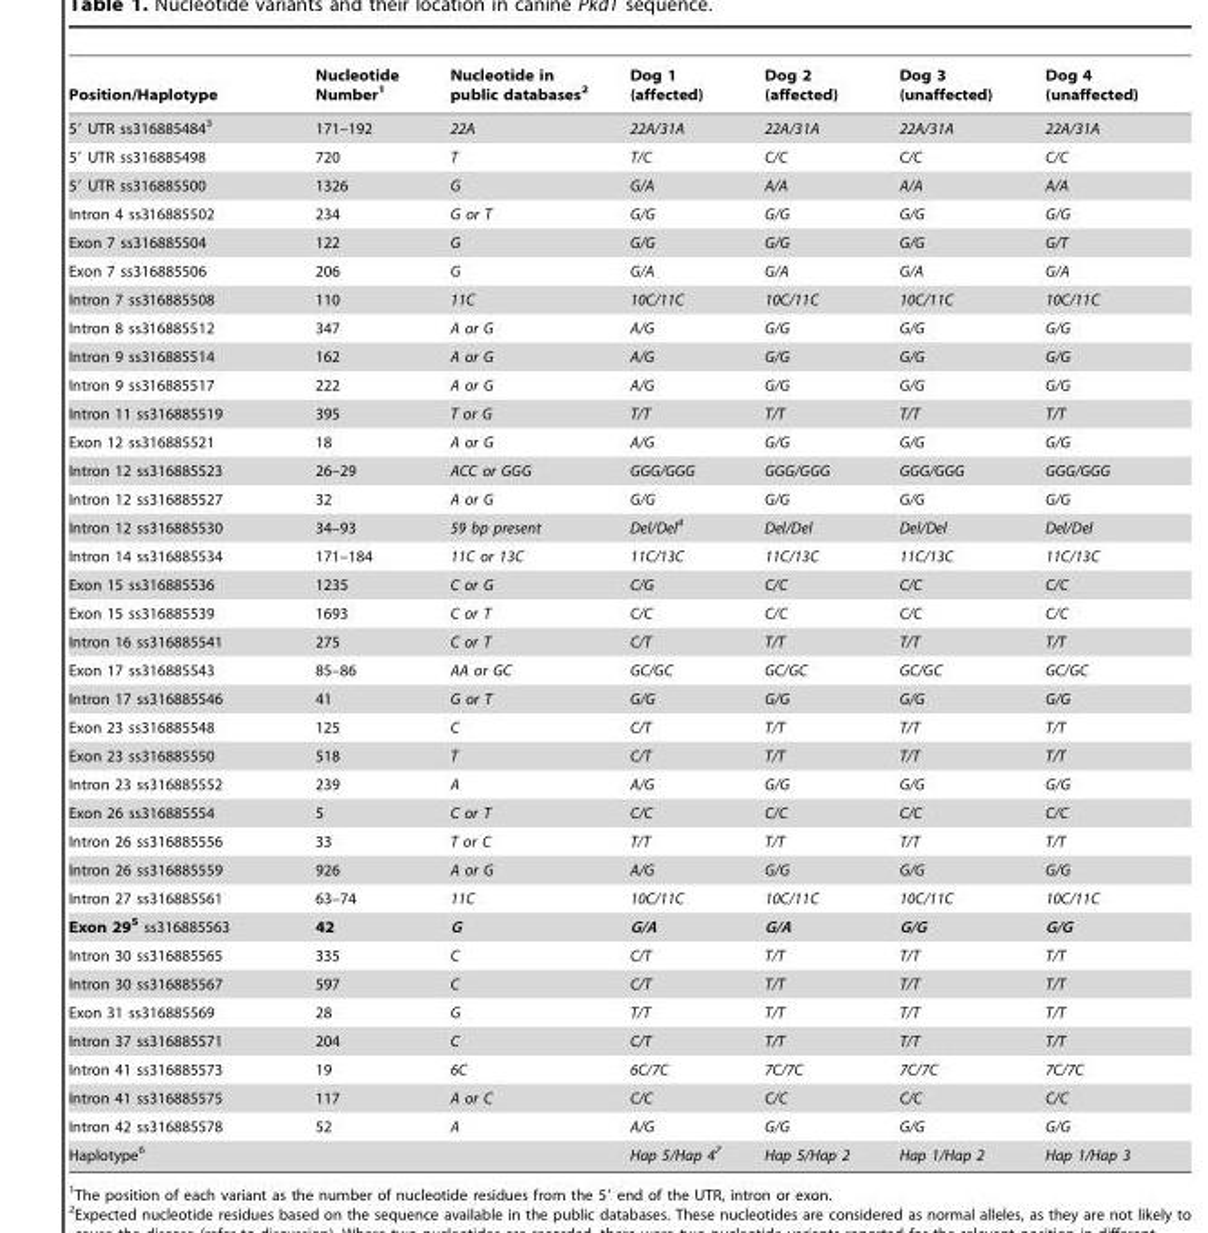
<table><thead><tr><td>Position/Haplotype</td><td>Nucleotide Number<sup>1</sup></td><td>Nucleotide in public databases<sup>2</sup></td><td>Dog 1 (affected)</td><td>Dog 2 (affected)</td><td>Dog 3 (unaffected)</td><td>Dog 4 (unaffected)</td></tr></thead><tbody><tr><td>5′ UTR ss316885484<sup>3</sup></td><td>171–192</td><td>22A</td><td>22A/31A</td><td>22A/31A</td><td>22A/31A</td><td>22A/31A</td></tr><tr><td>5′ UTR ss316885498</td><td>720</td><td>T</td><td>T/C</td><td>C/C</td><td>C/C</td><td>C/C</td></tr><tr><td>5′ UTR ss316885500</td><td>1326</td><td>G</td><td>G/A</td><td>A/A</td><td>A/A</td><td>A/A</td></tr><tr><td>Intron 4 ss316885502</td><td>234</td><td>G or T</td><td>G/G</td><td>G/G</td><td>G/G</td><td>G/G</td></tr><tr><td>Exon 7 ss316885504</td><td>122</td><td>G</td><td>G/G</td><td>G/G</td><td>G/G</td><td>G/T</td></tr><tr><td>Exon 7 ss316885506</td><td>206</td><td>G</td><td>G/A</td><td>G/A</td><td>G/A</td><td>G/A</td></tr><tr><td>Intron 7 ss316885508</td><td>110</td><td>11C</td><td>10C/11C</td><td>10C/11C</td><td>10C/11C</td><td>10C/11C</td></tr><tr><td>Intron 8 ss316885512</td><td>347</td><td>A or G</td><td>A/G</td><td>G/G</td><td>G/G</td><td>G/G</td></tr><tr><td>Intron 9 ss316885514</td><td>162</td><td>A or G</td><td>A/G</td><td>G/G</td><td>G/G</td><td>G/G</td></tr><tr><td>Intron 9 ss316885517</td><td>222</td><td>A or G</td><td>A/G</td><td>G/G</td><td>G/G</td><td>G/G</td></tr><tr><td>Intron 11 ss316885519</td><td>395</td><td>T or G</td><td>T/T</td><td>T/T</td><td>T/T</td><td>T/T</td></tr><tr><td>Exon 12 ss316885521</td><td>18</td><td>A or G</td><td>A/G</td><td>G/G</td><td>G/G</td><td>G/G</td></tr><tr><td>Intron 12 ss316885523</td><td>26–29</td><td>ACC or GGG</td><td>GGG/GGG</td><td>GGG/GGG</td><td>GGG/GGG</td><td>GGG/GGG</td></tr><tr><td>Intron 12 ss316885527</td><td>32</td><td>A or G</td><td>G/G</td><td>G/G</td><td>G/G</td><td>G/G</td></tr><tr><td>Intron 12 ss316885530</td><td>34–93</td><td>59 bp present</td><td>Del/Del4</td><td>Del/Del</td><td>Del/Del</td><td>Del/Del</td></tr><tr><td>Intron 14 ss316885534</td><td>171–184</td><td>11C or 13C</td><td>11C/13C</td><td>11C/13C</td><td>11C/13C</td><td>11C/13C</td></tr><tr><td>Exon 15 ss316885536</td><td>1235</td><td>C or G</td><td>C/G</td><td>C/C</td><td>C/C</td><td>C/C</td></tr><tr><td>Exon 15 ss316885539</td><td>1693</td><td>C or T</td><td>C/C</td><td>C/C</td><td>C/C</td><td>C/C</td></tr><tr><td>Intron 16 ss316885541</td><td>275</td><td>C or T</td><td>C/T</td><td>T/T</td><td>T/T</td><td>T/T</td></tr><tr><td>Exon 17 ss316885543</td><td>85–86</td><td>AA or GC</td><td>GC/GC</td><td>GC/GC</td><td>GC/GC</td><td>GC/GC</td></tr><tr><td>Intron 17 ss316885546</td><td>41</td><td>G or T</td><td>G/G</td><td>G/G</td><td>G/G</td><td>G/G</td></tr><tr><td>Exon 23 ss316885548</td><td>125</td><td>C</td><td>C/T</td><td>T/T</td><td>T/T</td><td>T/T</td></tr><tr><td>Exon 23 ss316885550</td><td>518</td><td>T</td><td>C/T</td><td>T/T</td><td>T/T</td><td>T/T</td></tr><tr><td>Intron 23 ss316885552</td><td>239</td><td>A</td><td>A/G</td><td>G/G</td><td>G/G</td><td>G/G</td></tr><tr><td>Exon 26 ss316885554</td><td>5</td><td>C or T</td><td>C/C</td><td>C/C</td><td>C/C</td><td>C/C</td></tr><tr><td>Intron 26 ss316885556</td><td>33</td><td>T or C</td><td>T/T</td><td>T/T</td><td>T/T</td><td>T/T</td></tr><tr><td>Intron 26 ss316885559</td><td>926</td><td>A or G</td><td>A/G</td><td>G/G</td><td>G/G</td><td>G/G</td></tr><tr><td>Intron 27 ss316885561</td><td>63–74</td><td>11C</td><td>10C/11C</td><td>10C/11C</td><td>10C/11C</td><td>10C/11C</td></tr><tr><td>Exon 295 ss316885563</td><td>42</td><td>G</td><td>G/A</td><td>G/A</td><td>G/G</td><td>G/G</td></tr><tr><td>Intron 30 ss316885565</td><td>335</td><td>C</td><td>C/T</td><td>T/T</td><td>T/T</td><td>T/T</td></tr><tr><td>Intron 30 ss316885567</td><td>597</td><td>C</td><td>C/T</td><td>T/T</td><td>T/T</td><td>T/T</td></tr><tr><td>Exon 31 ss316885569</td><td>28</td><td>G</td><td>T/T</td><td>T/T</td><td>T/T</td><td>T/T</td></tr><tr><td>Intron 37 ss316885571</td><td>204</td><td>C</td><td>C/T</td><td>T/T</td><td>T/T</td><td>T/T</td></tr><tr><td>Intron 41 ss316885573</td><td>19</td><td>6C</td><td>6C/7C</td><td>7C/7C</td><td>7C/7C</td><td>7C/7C</td></tr><tr><td>Intron 41 ss316885575</td><td>117</td><td>A or C</td><td>C/C</td><td>C/C</td><td>C/C</td><td>C/C</td></tr><tr><td>Intron 42 ss316885578</td><td>52</td><td>A</td><td>A/G</td><td>G/G</td><td>G/G</td><td>G/G</td></tr><tr><td colspan="3">Haplotype<sup>6</sup></td><td>Hap 5/Hap 47</td><td>Hap 5/Hap 2</td><td>Hap 1/Hap 2</td><td>Hap 1/Hap 3</td></tr></tbody></table>